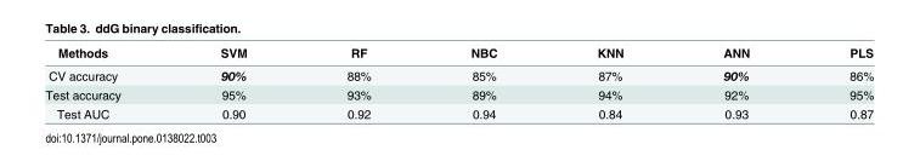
<table><thead><tr><td>Methods</td><td>SVM</td><td>RF</td><td>NBC</td><td>KNN</td><td>ANN</td><td>PLS</td></tr></thead><tbody><tr><td>CV accuracy</td><td>90%</td><td>88%</td><td>85%</td><td>87%</td><td>90%</td><td>86%</td></tr><tr><td>Test accuracy</td><td>95%</td><td>93%</td><td>89%</td><td>94%</td><td>92%</td><td>95%</td></tr><tr><td>Test AUC</td><td>0.90</td><td>0.92</td><td>0.94</td><td>0.84</td><td>0.93</td><td>0.87</td></tr></tbody></table>